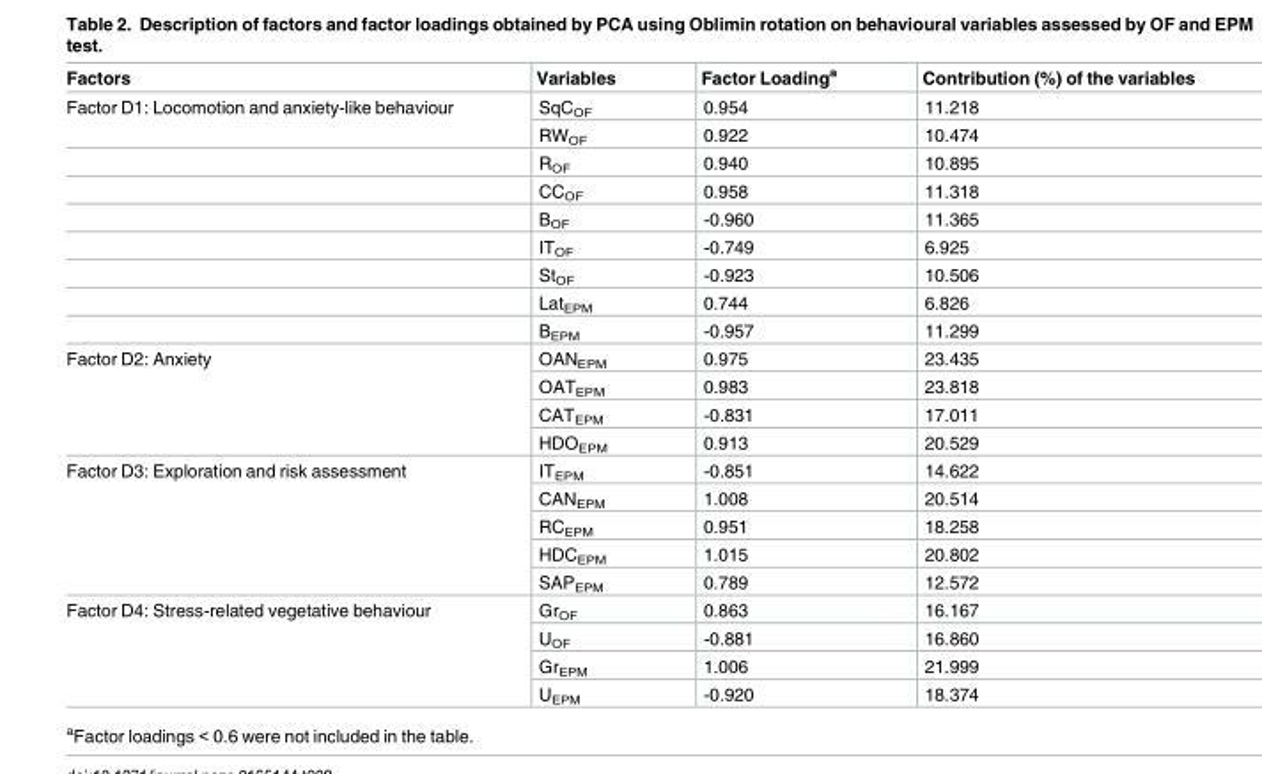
<table><thead><tr><td>Factors</td><td>Variables</td><td>Factor Loading<sup>a</sup></td><td>Contribution (%) of the variables</td></tr></thead><tbody><tr><td rowspan="9">Factor D1: Locomotion and anxiety-like behaviour</td><td>SqC<sub>OF</sub></td><td>0.954</td><td>11.218</td></tr><tr><td>RW<sub>OF</sub></td><td>0.922</td><td>10.474</td></tr><tr><td>R<sub>OF</sub></td><td>0.940</td><td>10.895</td></tr><tr><td>CC<sub>OF</sub></td><td>0.958</td><td>11.318</td></tr><tr><td>B<sub>OF</sub></td><td>-0.960</td><td>11.365</td></tr><tr><td>IT<sub>OF</sub></td><td>-0.749</td><td>6.925</td></tr><tr><td>St<sub>OF</sub></td><td>-0.923</td><td>10.506</td></tr><tr><td>Lat<sub>EPM</sub></td><td>0.744</td><td>6.826</td></tr><tr><td>B<sub>EPM</sub></td><td>-0.957</td><td>11.299</td></tr><tr><td rowspan="4">Factor D2: Anxiety</td><td>OAN<sub>EPM</sub></td><td>0.975</td><td>23.435</td></tr><tr><td>OAT<sub>EPM</sub></td><td>0.983</td><td>23.818</td></tr><tr><td>CAT<sub>EPM</sub></td><td>-0.831</td><td>17.011</td></tr><tr><td>HDO<sub>EPM</sub></td><td>0.913</td><td>20.529</td></tr><tr><td rowspan="5">Factor D3: Exploration and risk assessment</td><td>IT<sub>EPM</sub></td><td>-0.851</td><td>14.622</td></tr><tr><td>CAN<sub>EPM</sub></td><td>1.008</td><td>20.514</td></tr><tr><td>RC<sub>EPM</sub></td><td>0.951</td><td>18.258</td></tr><tr><td>HDC<sub>EPM</sub></td><td>1.015</td><td>20.802</td></tr><tr><td>SAP<sub>EPM</sub></td><td>0.789</td><td>12.572</td></tr><tr><td rowspan="4">Factor D4: Stress-related vegetative behaviour</td><td>Gr<sub>OF</sub></td><td>0.863</td><td>16.167</td></tr><tr><td>U<sub>OF</sub></td><td>-0.881</td><td>16.860</td></tr><tr><td>Gr<sub>EPM</sub></td><td>1.006</td><td>21.999</td></tr><tr><td>U<sub>EPM</sub></td><td>-0.920</td><td>18.374</td></tr></tbody></table>